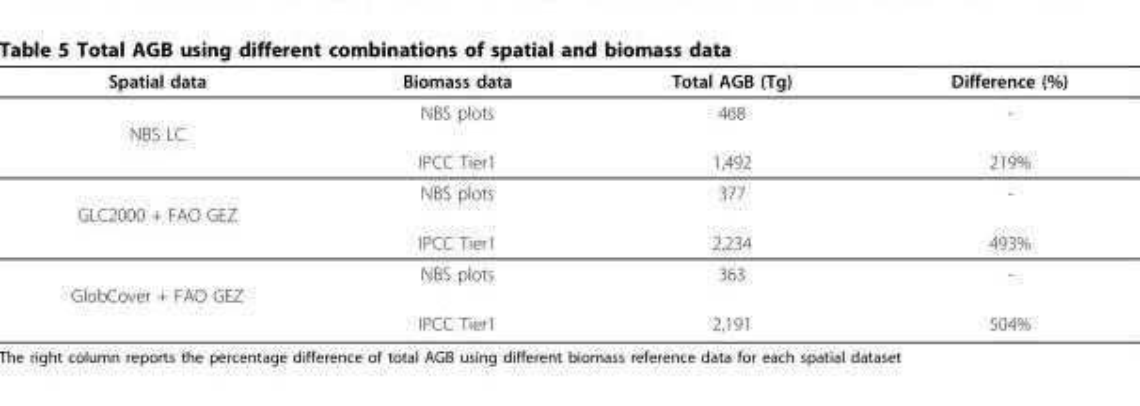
<table><thead><tr><td>Spatial data</td><td>Biomass data</td><td>Total AGB (Tg)</td><td>Difference (%)</td></tr></thead><tbody><tr><td rowspan="2">NBS LC</td><td>NBS plots</td><td>468</td><td>-</td></tr><tr><td>IPCC Tier1</td><td>1,492</td><td>219%</td></tr><tr><td rowspan="2">GLC2000 + FAO GEZ</td><td>NBS plots</td><td>377</td><td>-</td></tr><tr><td>IPCC Tier1</td><td>2,234</td><td>493%</td></tr><tr><td rowspan="2">GlobCover + FAO GEZ</td><td>NBS plots</td><td>363</td><td>-</td></tr><tr><td>IPCC Tier1</td><td>2,191</td><td>504%</td></tr></tbody></table>